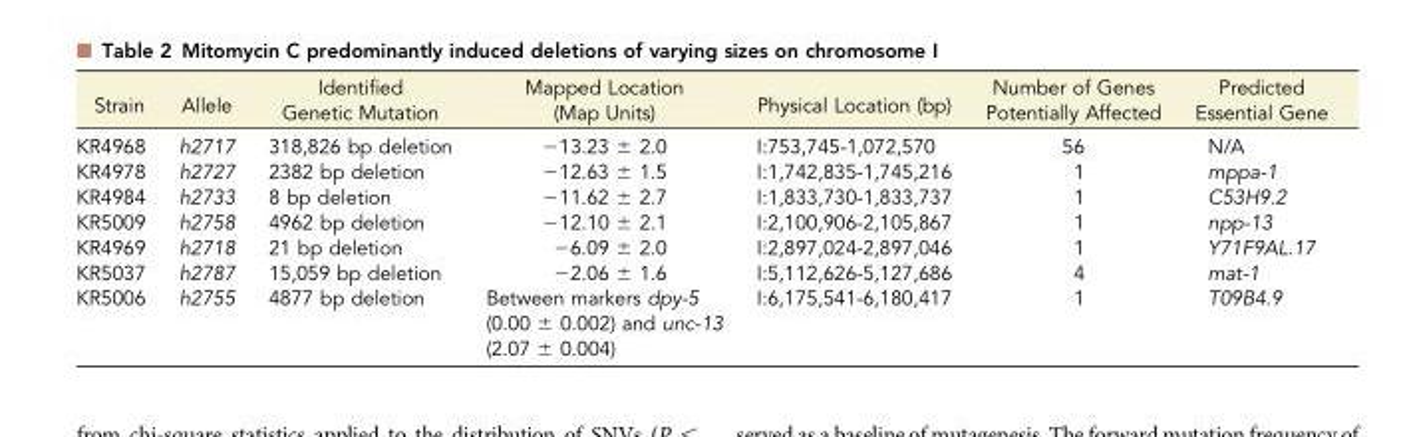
<table><thead><tr><td>Strain</td><td>Allele</td><td>Identified Genetic Mutation</td><td>Mapped Location (Map Units)</td><td>Physical Location (bp)</td><td>Number of Genes Potentially Affected</td><td>Predicted Essential Gene</td></tr></thead><tbody><tr><td>KR4968</td><td>h2717</td><td>318,826 bp deletion</td><td>−13.23 ± 2.0</td><td>I:753,745-1,072,570</td><td>56</td><td>N/A</td></tr><tr><td>KR4978</td><td>h2727</td><td>2382 bp deletion</td><td>−12.63 ± 1.5</td><td>I:1,742,835-1,745,216</td><td>1</td><td>mppa-1</td></tr><tr><td>KR4984</td><td>h2733</td><td>8 bp deletion</td><td>−11.62 ± 2.7</td><td>I:1,833,730-1,833,737</td><td>1</td><td>C53H9.2</td></tr><tr><td>KR5009</td><td>h2758</td><td>4962 bp deletion</td><td>−12.10 ± 2.1</td><td>I:2,100,906-2,105,867</td><td>1</td><td>npp-13</td></tr><tr><td>KR4969</td><td>h2718</td><td>21 bp deletion</td><td>−6.09 ± 2.0</td><td>I:2,897,024-2,897,046</td><td>1</td><td>Y71F9AL.17</td></tr><tr><td>KR5037</td><td>h2787</td><td>15,059 bp deletion</td><td>−2.06 ± 1.6</td><td>I:5,112,626-5,127,686</td><td>4</td><td>mat-1</td></tr><tr><td>KR5006</td><td>h2755</td><td>4877 bp deletion</td><td>Between markers dpy-5 (0.00 ± 0.002) and unc-13 (2.07 ± 0.004)</td><td>I:6,175,541-6,180,417</td><td>1</td><td>T09B4.9</td></tr></tbody></table>